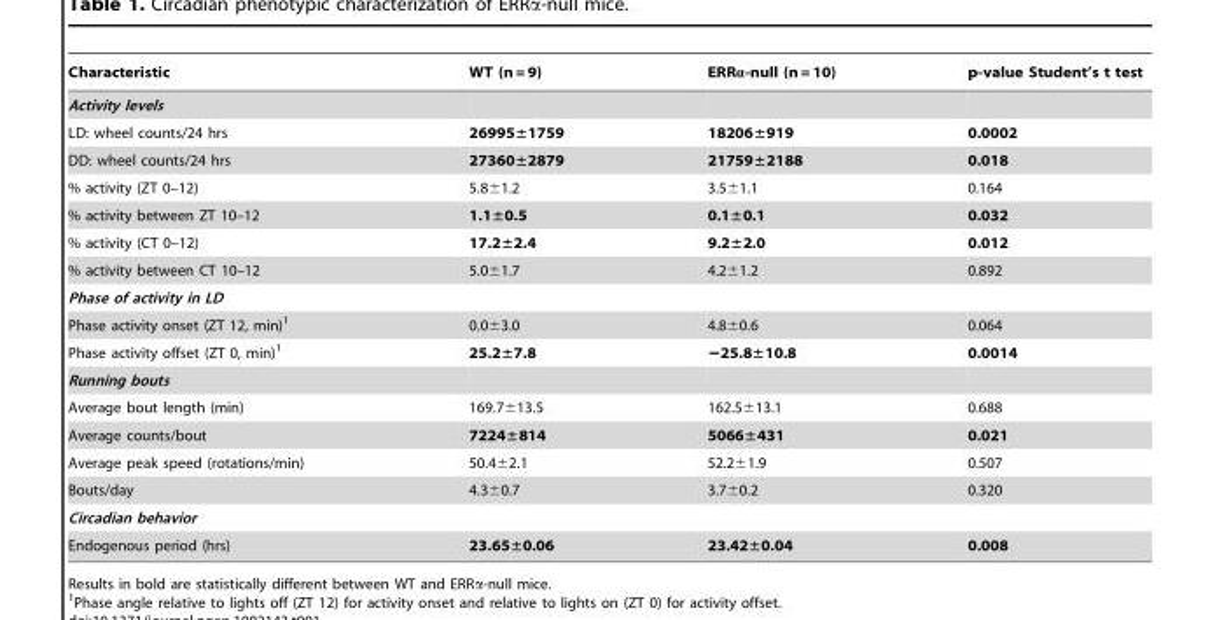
<table><thead><tr><td>Characteristic</td><td>WT (n = 9)</td><td>ERRα-null (n = 10)</td><td>p-value Student’s t test</td></tr></thead><tbody><tr><td colspan="4">Activity levels</td></tr><tr><td>LD: wheel counts/24 hrs</td><td>26995±1759</td><td>18206±919</td><td>0.0002</td></tr><tr><td>DD: wheel counts/24 hrs</td><td>27360±2879</td><td>21759±2188</td><td>0.018</td></tr><tr><td>% activity (ZT 0–12)</td><td>5.8±1.2</td><td>3.5±1.1</td><td>0.164</td></tr><tr><td>% activity between ZT 10–12</td><td>1.1±0.5</td><td>0.1±0.1</td><td>0.032</td></tr><tr><td>% activity (CT 0–12)</td><td>17.2±2.4</td><td>9.2±2.0</td><td>0.012</td></tr><tr><td>% activity between CT 10–12</td><td>5.0±1.7</td><td>4.2±1.2</td><td>0.892</td></tr><tr><td colspan="4">Phase of activity in LD</td></tr><tr><td>Phase activity onset (ZT 12, min)<sup>1</sup></td><td>0.0±3.0</td><td>4.8±0.6</td><td>0.064</td></tr><tr><td>Phase activity offset (ZT 0, min)<sup>1</sup></td><td>25.2±7.8</td><td>−25.8±10.8</td><td>0.0014</td></tr><tr><td colspan="4">Running bouts</td></tr><tr><td>Average bout length (min)</td><td>169.7±13.5</td><td>162.5±13.1</td><td>0.688</td></tr><tr><td>Average counts/bout</td><td>7224±814</td><td>5066±431</td><td>0.021</td></tr><tr><td>Average peak speed (rotations/min)</td><td>50.4±2.1</td><td>52.2±1.9</td><td>0.507</td></tr><tr><td>Bouts/day</td><td>4.3±0.7</td><td>3.7±0.2</td><td>0.320</td></tr><tr><td colspan="4">Circadian behavior</td></tr><tr><td>Endogenous period (hrs)</td><td>23.65±0.06</td><td>23.42±0.04</td><td>0.008</td></tr></tbody></table>